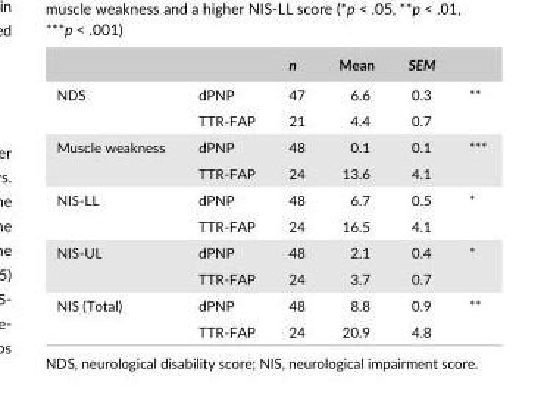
<table><thead><tr><td></td><td></td><td>n</td><td>Mean</td><td>SEM</td><td></td></tr></thead><tbody><tr><td rowspan="2">NDS</td><td>dPNP</td><td>47</td><td>6.6</td><td>0.3</td><td>**</td></tr><tr><td>TTR- FAP</td><td>21</td><td>4.4</td><td>0.7</td><td></td></tr><tr><td rowspan="2">Muscle weakness</td><td>dPNP</td><td>48</td><td>0.1</td><td>0.1</td><td>***</td></tr><tr><td>TTR- FAP</td><td>24</td><td>13.6</td><td>4.1</td><td></td></tr><tr><td rowspan="2">NIS- LL</td><td>dPNP</td><td>48</td><td>6.7</td><td>0.5</td><td>*</td></tr><tr><td>TTR- FAP</td><td>24</td><td>16.5</td><td>4.1</td><td></td></tr><tr><td rowspan="2">NIS- UL</td><td>dPNP</td><td>48</td><td>2.1</td><td>0.4</td><td>*</td></tr><tr><td>TTR- FAP</td><td>24</td><td>3.7</td><td>0.7</td><td></td></tr><tr><td rowspan="2">NIS (Total)</td><td>dPNP</td><td>48</td><td>8.8</td><td>0.9</td><td>**</td></tr><tr><td>TTR- FAP</td><td>24</td><td>20.9</td><td>4.8</td><td></td></tr></tbody></table>